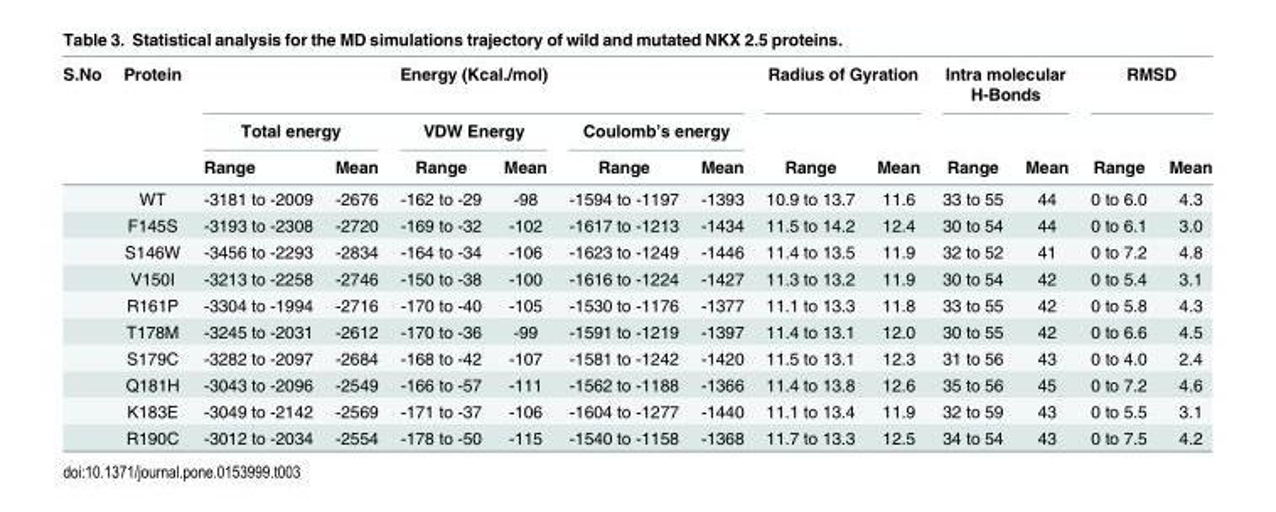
<table><thead><tr><td rowspan="3">S.No</td><td rowspan="3">Protein</td><td colspan="6">Energy (Kcal./mol)</td><td colspan="2">Radius of Gyration</td><td colspan="2">Intra molecular H-Bonds</td><td colspan="2">RMSD</td></tr><tr><td colspan="2">Total energy</td><td colspan="2">VDW Energy</td><td colspan="2">Coulomb’s energy</td><td rowspan="2">Range</td><td rowspan="2">Mean</td><td rowspan="2">Range</td><td rowspan="2">Mean</td><td rowspan="2">Range</td><td rowspan="2">Mean</td></tr><tr><td>Range</td><td>Mean</td><td>Range</td><td>Mean</td><td>Range</td><td>Mean</td></tr></thead><tbody><tr><td></td><td>WT</td><td>-3181 to -2009</td><td>-2676</td><td>-162 to -29</td><td>-98</td><td>-1594 to -1197</td><td>-1393</td><td>10.9 to 13.7</td><td>11.6</td><td>33 to 55</td><td>44</td><td>0 to 6.0</td><td>4.3</td></tr><tr><td></td><td>F145S</td><td>-3193 to -2308</td><td>-2720</td><td>-169 to -32</td><td>-102</td><td>-1617 to -1213</td><td>-1434</td><td>11.5 to 14.2</td><td>12.4</td><td>30 to 54</td><td>44</td><td>0 to 6.1</td><td>3.0</td></tr><tr><td></td><td>S146W</td><td>-3456 to -2293</td><td>-2834</td><td>-164 to -34</td><td>-106</td><td>-1623 to -1249</td><td>-1446</td><td>11.4 to 13.5</td><td>11.9</td><td>32 to 52</td><td>41</td><td>0 to 7.2</td><td>4.8</td></tr><tr><td></td><td>V150I</td><td>-3213 to -2258</td><td>-2746</td><td>-150 to -38</td><td>-100</td><td>-1616 to -1224</td><td>-1427</td><td>11.3 to 13.2</td><td>11.9</td><td>30 to 54</td><td>42</td><td>0 to 5.4</td><td>3.1</td></tr><tr><td></td><td>R161P</td><td>-3304 to -1994</td><td>-2716</td><td>-170 to -40</td><td>-105</td><td>-1530 to -1176</td><td>-1377</td><td>11.1 to 13.3</td><td>11.8</td><td>33 to 55</td><td>42</td><td>0 to 5.8</td><td>4.3</td></tr><tr><td></td><td>T178M</td><td>-3245 to -2031</td><td>-2612</td><td>-170 to -36</td><td>-99</td><td>-1591 to -1219</td><td>-1397</td><td>11.4 to 13.1</td><td>12.0</td><td>30 to 55</td><td>42</td><td>0 to 6.6</td><td>4.5</td></tr><tr><td></td><td>S179C</td><td>-3282 to -2097</td><td>-2684</td><td>-168 to -42</td><td>-107</td><td>-1581 to -1242</td><td>-1420</td><td>11.5 to 13.1</td><td>12.3</td><td>31 to 56</td><td>43</td><td>0 to 4.0</td><td>2.4</td></tr><tr><td></td><td>Q181H</td><td>-3043 to -2096</td><td>-2549</td><td>-166 to -57</td><td>-111</td><td>-1562 to -1188</td><td>-1366</td><td>11.4 to 13.8</td><td>12.6</td><td>35 to 56</td><td>45</td><td>0 to 7.2</td><td>4.6</td></tr><tr><td></td><td>K183E</td><td>-3049 to -2142</td><td>-2569</td><td>-171 to -37</td><td>-106</td><td>-1604 to -1277</td><td>-1440</td><td>11.1 to 13.4</td><td>11.9</td><td>32 to 59</td><td>43</td><td>0 to 5.5</td><td>3.1</td></tr><tr><td></td><td>R190C</td><td>-3012 to -2034</td><td>-2554</td><td>-178 to -50</td><td>-115</td><td>-1540 to -1158</td><td>-1368</td><td>11.7 to 13.3</td><td>12.5</td><td>34 to 54</td><td>43</td><td>0 to 7.5</td><td>4.2</td></tr></tbody></table>